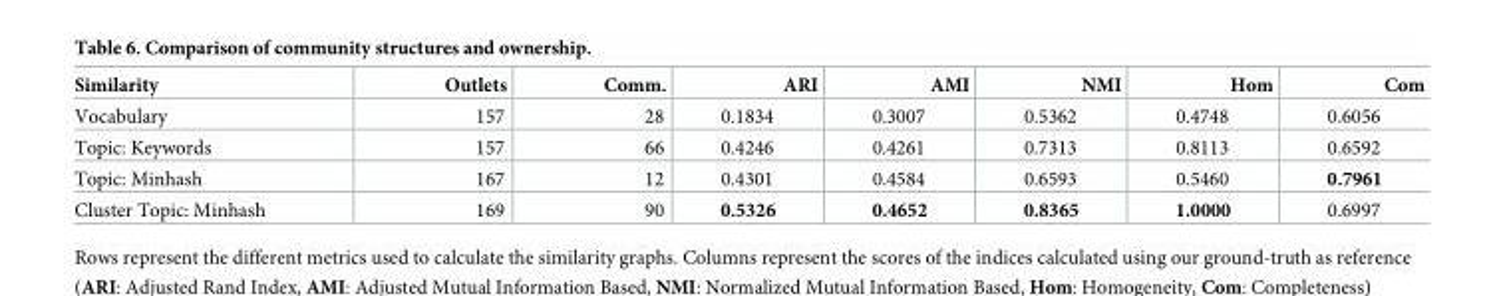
<table><thead><tr><td>Similarity</td><td>Outlets</td><td>Comm.</td><td>ARI</td><td>AMI</td><td>NMI</td><td>Hom</td><td>Com</td></tr></thead><tbody><tr><td>Vocabulary</td><td>157</td><td>28</td><td>0.1834</td><td>0.3007</td><td>0.5362</td><td>0.4748</td><td>0.6056</td></tr><tr><td>Topic: Keywords</td><td>157</td><td>66</td><td>0.4246</td><td>0.4261</td><td>0.7313</td><td>0.8113</td><td>0.6592</td></tr><tr><td>Topic: Minhash</td><td>167</td><td>12</td><td>0.4301</td><td>0.4584</td><td>0.6593</td><td>0.5460</td><td>0.7961</td></tr><tr><td>Cluster Topic: Minhash</td><td>169</td><td>90</td><td>0.5326</td><td>0.4652</td><td>0.8365</td><td>1.0000</td><td>0.6997</td></tr></tbody></table>